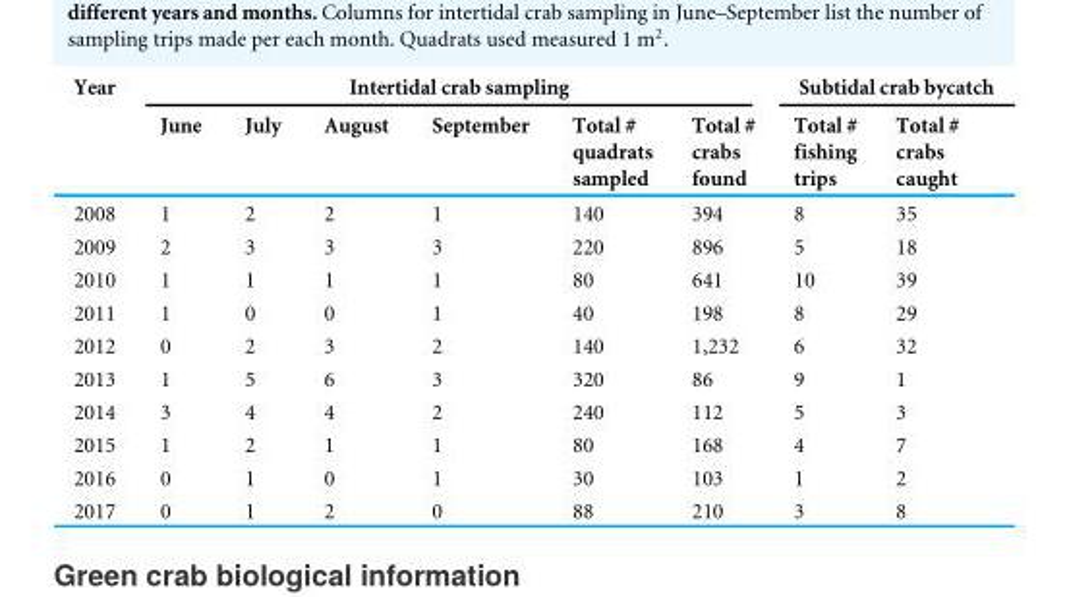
<table><thead><tr><td rowspan="2">Year</td><td colspan="6">Intertidal crab sampling</td><td colspan="2">Subtidal crab bycatch</td></tr><tr><td>June</td><td>July</td><td>August</td><td>September</td><td>Total # quadrats sampled</td><td>Total # crabs found</td><td>Total # fishing trips</td><td>Total # crabs caught</td></tr></thead><tbody><tr><td>2008</td><td>1</td><td>2</td><td>2</td><td>1</td><td>140</td><td>394</td><td>8</td><td>35</td></tr><tr><td>2009</td><td>2</td><td>3</td><td>3</td><td>3</td><td>220</td><td>896</td><td>5</td><td>18</td></tr><tr><td>2010</td><td>1</td><td>1</td><td>1</td><td>1</td><td>80</td><td>641</td><td>10</td><td>39</td></tr><tr><td>2011</td><td>1</td><td>0</td><td>0</td><td>1</td><td>40</td><td>198</td><td>8</td><td>29</td></tr><tr><td>2012</td><td>0</td><td>2</td><td>3</td><td>2</td><td>140</td><td>1,232</td><td>6</td><td>32</td></tr><tr><td>2013</td><td>1</td><td>5</td><td>6</td><td>3</td><td>320</td><td>86</td><td>9</td><td>1</td></tr><tr><td>2014</td><td>3</td><td>4</td><td>4</td><td>2</td><td>240</td><td>112</td><td>5</td><td>3</td></tr><tr><td>2015</td><td>1</td><td>2</td><td>1</td><td>1</td><td>80</td><td>168</td><td>4</td><td>7</td></tr><tr><td>2016</td><td>0</td><td>1</td><td>0</td><td>1</td><td>30</td><td>103</td><td>1</td><td>2</td></tr><tr><td>2017</td><td>0</td><td>1</td><td>2</td><td>0</td><td>88</td><td>210</td><td>3</td><td>8</td></tr></tbody></table>